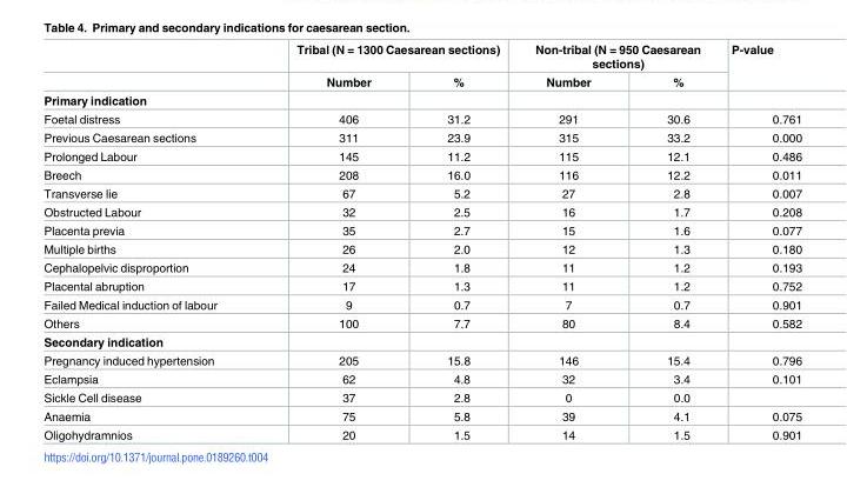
<table><thead><tr><td rowspan="2"></td><td colspan="2">Tribal (N = 1300 Caesarean sections)</td><td colspan="2">Non-tribal (N = 950 Caesarean sections)</td><td rowspan="2">P-value</td></tr><tr><td>Number</td><td>%</td><td>Number</td><td>%</td></tr></thead><tbody><tr><td colspan="6">Primary indication</td></tr><tr><td>Foetal distress</td><td>406</td><td>31.2</td><td>291</td><td>30.6</td><td>0.761</td></tr><tr><td>Previous Caesarean sections</td><td>311</td><td>23.9</td><td>315</td><td>33.2</td><td>0.000</td></tr><tr><td>Prolonged Labour</td><td>145</td><td>11.2</td><td>115</td><td>12.1</td><td>0.486</td></tr><tr><td>Breech</td><td>208</td><td>16.0</td><td>116</td><td>12.2</td><td>0.011</td></tr><tr><td>Transverse lie</td><td>67</td><td>5.2</td><td>27</td><td>2.8</td><td>0.007</td></tr><tr><td>Obstructed Labour</td><td>32</td><td>2.5</td><td>16</td><td>1.7</td><td>0.208</td></tr><tr><td>Placenta previa</td><td>35</td><td>2.7</td><td>15</td><td>1.6</td><td>0.077</td></tr><tr><td>Multiple births</td><td>26</td><td>2.0</td><td>12</td><td>1.3</td><td>0.180</td></tr><tr><td>Cephalopelvic disproportion</td><td>24</td><td>1.8</td><td>11</td><td>1.2</td><td>0.193</td></tr><tr><td>Placental abruption</td><td>17</td><td>1.3</td><td>11</td><td>1.2</td><td>0.752</td></tr><tr><td>Failed Medical induction of labour</td><td>9</td><td>0.7</td><td>7</td><td>0.7</td><td>0.901</td></tr><tr><td>Others</td><td>100</td><td>7.7</td><td>80</td><td>8.4</td><td>0.582</td></tr><tr><td colspan="6">Secondary indication</td></tr><tr><td>Pregnancy induced hypertension</td><td>205</td><td>15.8</td><td>146</td><td>15.4</td><td>0.796</td></tr><tr><td>Eclampsia</td><td>62</td><td>4.8</td><td>32</td><td>3.4</td><td>0.101</td></tr><tr><td>Sickle Cell disease</td><td>37</td><td>2.8</td><td>0</td><td>0.0</td><td></td></tr><tr><td>Anaemia</td><td>75</td><td>5.8</td><td>39</td><td>4.1</td><td>0.075</td></tr><tr><td>Oligohydramnios</td><td>20</td><td>1.5</td><td>14</td><td>1.5</td><td>0.901</td></tr></tbody></table>